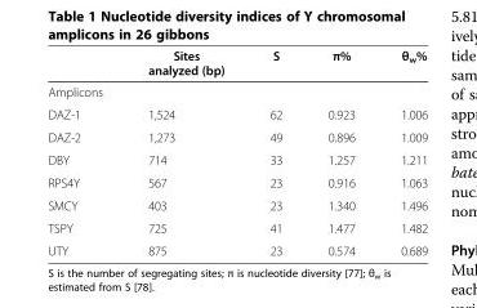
<table><thead><tr><td></td><td>Sites analyzed (bp)</td><td>S</td><td>π%</td><td>θ<sub>w</sub>%</td></tr></thead><tbody><tr><td colspan="5">Amplicons</td></tr><tr><td>DAZ-1</td><td>1,524</td><td>62</td><td>0.923</td><td>1.006</td></tr><tr><td>DAZ-2</td><td>1,273</td><td>49</td><td>0.896</td><td>1.009</td></tr><tr><td>DBY</td><td>714</td><td>33</td><td>1.257</td><td>1.211</td></tr><tr><td>RPS4Y</td><td>567</td><td>23</td><td>0.916</td><td>1.063</td></tr><tr><td>SMCY</td><td>403</td><td>23</td><td>1.340</td><td>1.496</td></tr><tr><td>TSPY</td><td>725</td><td>41</td><td>1.477</td><td>1.482</td></tr><tr><td>UTY</td><td>875</td><td>23</td><td>0.574</td><td>0.689</td></tr></tbody></table>